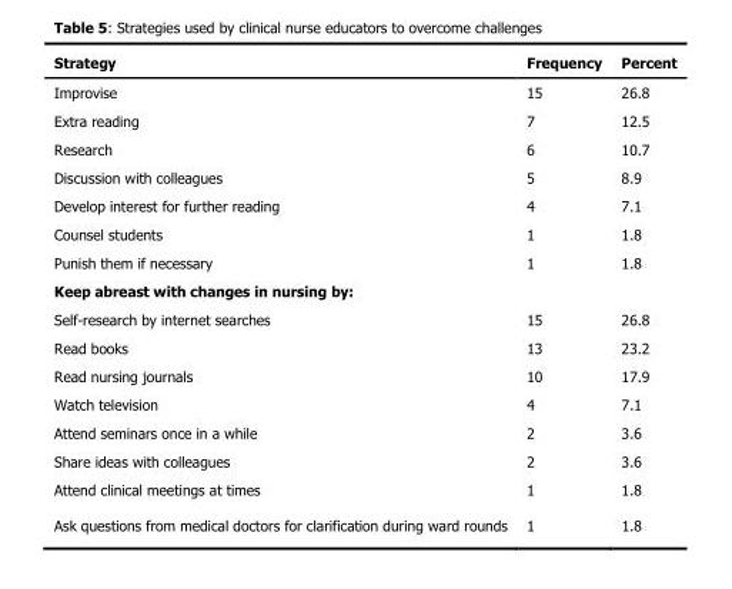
<table><thead><tr><td>Strategy</td><td>Frequency</td><td>Percent</td></tr></thead><tbody><tr><td>Improvise</td><td>15</td><td>26.8</td></tr><tr><td>Extra reading</td><td>7</td><td>12.5</td></tr><tr><td>Research</td><td>6</td><td>10.7</td></tr><tr><td>Discussion with colleagues</td><td>5</td><td>8.9</td></tr><tr><td>Develop interest for further reading</td><td>4</td><td>7.1</td></tr><tr><td>Counsel students</td><td>1</td><td>1.8</td></tr><tr><td>Punish them if necessary</td><td>1</td><td>1.8</td></tr><tr><td colspan="3">Keep abreast with changes in nursing by:</td></tr><tr><td>Self-research by internet searches</td><td>15</td><td>26.8</td></tr><tr><td>Read books</td><td>13</td><td>23.2</td></tr><tr><td>Read nursing journals</td><td>10</td><td>17.9</td></tr><tr><td>Watch television</td><td>4</td><td>7.1</td></tr><tr><td>Attend seminars once in a while</td><td>2</td><td>3.6</td></tr><tr><td>Share ideas with colleagues</td><td>2</td><td>3.6</td></tr><tr><td>Attend clinical meetings at times</td><td>1</td><td>1.8</td></tr><tr><td>Ask questions from medical doctors for clarification during ward rounds</td><td>1</td><td>1.8</td></tr></tbody></table>